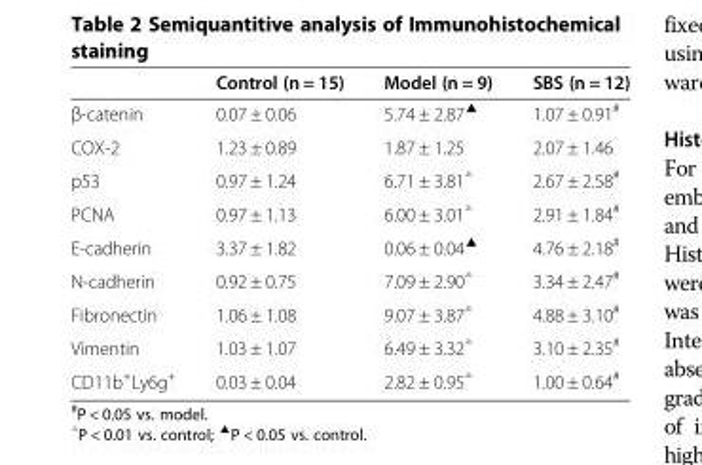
<table><thead><tr><td></td><td>Control (n = 15)</td><td>Model (n = 9)</td><td>SBS (n = 12)</td></tr></thead><tbody><tr><td>β-catenin</td><td>0.07 ± 0.06</td><td>5.74 ± 2.87<sup>▲</sup></td><td>1.07 ± 0.91<sup>#</sup></td></tr><tr><td>COX-2</td><td>1.23 ± 0.89</td><td>1.87 ± 1.25</td><td>2.07 ± 1.46</td></tr><tr><td>p53</td><td>0.97 ± 1.24</td><td>6.71 ± 3.81<sup>△</sup></td><td>2.67 ± 2.58<sup>#</sup></td></tr><tr><td>PCNA</td><td>0.97 ± 1.13</td><td>6.00 ± 3.01<sup>△</sup></td><td>2.91 ± 1.84<sup>#</sup></td></tr><tr><td>E-cadherin</td><td>3.37 ± 1.82</td><td>0.06 ± 0.04<sup>▲</sup></td><td>4.76 ± 2.18<sup>#</sup></td></tr><tr><td>N-cadherin</td><td>0.92 ± 0.75</td><td>7.09 ± 2.90<sup>△</sup></td><td>3.34 ± 2.47<sup>#</sup></td></tr><tr><td>Fibronectin</td><td>1.06 ± 1.08</td><td>9.07 ± 3.87<sup>△</sup></td><td>4.88 ± 3.10<sup>#</sup></td></tr><tr><td>Vimentin</td><td>1.03 ± 1.07</td><td>6.49 ± 3.32<sup>△</sup></td><td>3.10 ± 2.35<sup>#</sup></td></tr><tr><td>CD11b<sup>+</sup>Ly6g<sup>+</sup></td><td>0.03 ± 0.04</td><td>2.82 ± 0.95<sup>△</sup></td><td>1.00 ± 0.64<sup>#</sup></td></tr></tbody></table>